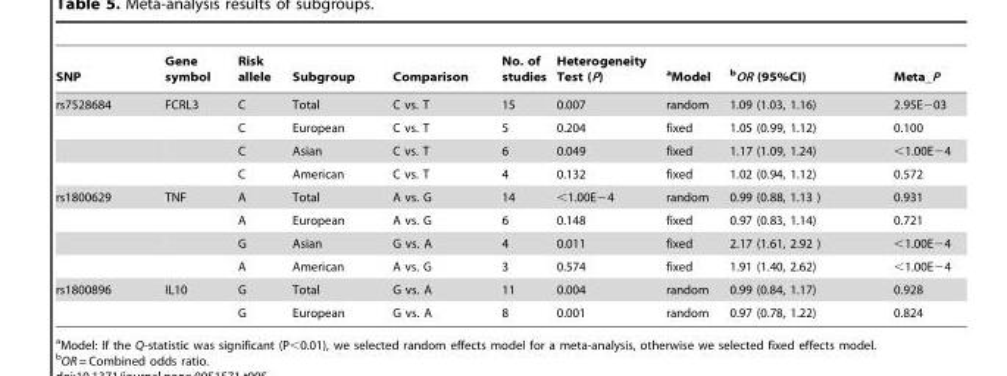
<table><thead><tr><td>SNP</td><td>Gene symbol</td><td>Risk allele</td><td>Subgroup</td><td>Comparison</td><td>No. of studies</td><td>Heterogeneity Test (P)</td><td>aModel</td><td>bOR (95%CI)</td><td>Meta_P</td></tr></thead><tbody><tr><td rowspan="4">rs7528684</td><td>FCRL3</td><td>C</td><td>Total</td><td>C vs. T</td><td>15</td><td>0.007</td><td>random</td><td>1.09 (1.03, 1.16)</td><td>2.95E−03</td></tr><tr><td></td><td>C</td><td>European</td><td>C vs. T</td><td>5</td><td>0.204</td><td>fixed</td><td>1.05 (0.99, 1.12)</td><td>0.100</td></tr><tr><td></td><td>C</td><td>Asian</td><td>C vs. T</td><td>6</td><td>0.049</td><td>fixed</td><td>1.17 (1.09, 1.24)</td><td>&lt;1.00E−4</td></tr><tr><td></td><td>C</td><td>American</td><td>C vs. T</td><td>4</td><td>0.132</td><td>fixed</td><td>1.02 (0.94, 1.12)</td><td>0.572</td></tr><tr><td rowspan="4">rs1800629</td><td>TNF</td><td>A</td><td>Total</td><td>A vs. G</td><td>14</td><td>&lt;1.00E−4</td><td>random</td><td>0.99 (0.88, 1.13 )</td><td>0.931</td></tr><tr><td></td><td>A</td><td>European</td><td>A vs. G</td><td>6</td><td>0.148</td><td>fixed</td><td>0.97 (0.83, 1.14)</td><td>0.721</td></tr><tr><td></td><td>G</td><td>Asian</td><td>G vs. A</td><td>4</td><td>0.011</td><td>fixed</td><td>2.17 (1.61, 2.92 )</td><td>&lt;1.00E−4</td></tr><tr><td></td><td>A</td><td>American</td><td>A vs. G</td><td>3</td><td>0.574</td><td>fixed</td><td>1.91 (1.40, 2.62)</td><td>&lt;1.00E−4</td></tr><tr><td rowspan="2">rs1800896</td><td>IL10</td><td>G</td><td>Total</td><td>G vs. A</td><td>11</td><td>0.004</td><td>random</td><td>0.99 (0.84, 1.17)</td><td>0.928</td></tr><tr><td></td><td>G</td><td>European</td><td>G vs. A</td><td>8</td><td>0.001</td><td>random</td><td>0.97 (0.78, 1.22)</td><td>0.824</td></tr></tbody></table>